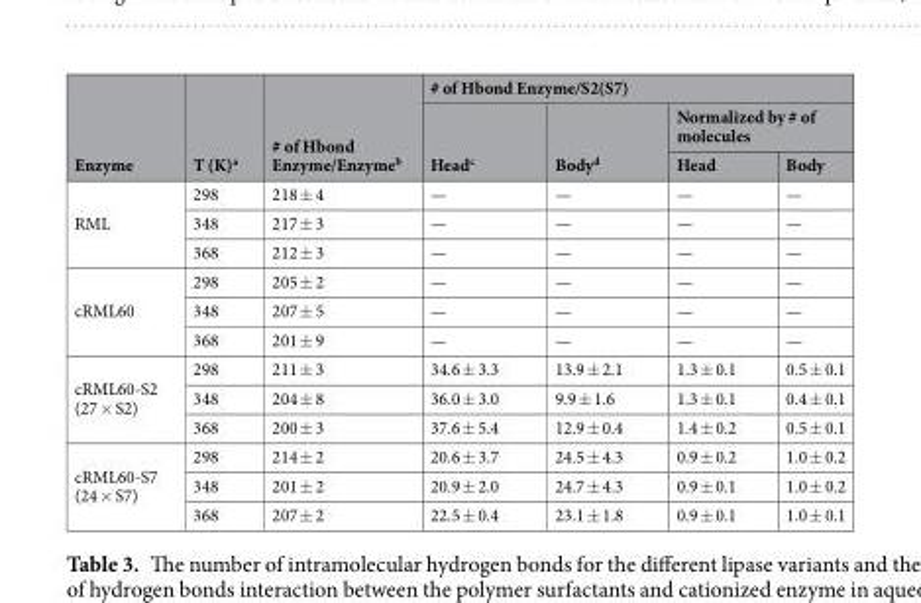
<table><thead><tr><td rowspan="3">Enzyme</td><td rowspan="3">T (K)<sup>a</sup></td><td rowspan="3"># of Hbond Enzyme/Enzyme<sup>b</sup></td><td colspan="4"># of Hbond Enzyme/S2(S7)</td></tr><tr><td rowspan="2">Head<sup>c</sup></td><td rowspan="2">Body<sup>d</sup></td><td colspan="2">Normalized by # of molecules</td></tr><tr><td>Head</td><td>Body</td></tr></thead><tbody><tr><td rowspan="3">RML</td><td>298</td><td>218 ± 4</td><td>—</td><td>—</td><td>—</td><td>—</td></tr><tr><td>348</td><td>217 ± 3</td><td>—</td><td>—</td><td>—</td><td>—</td></tr><tr><td>368</td><td>212 ± 3</td><td>—</td><td>—</td><td>—</td><td>—</td></tr><tr><td rowspan="3">cRML60</td><td>298</td><td>205 ± 2</td><td>—</td><td>—</td><td>—</td><td>—</td></tr><tr><td>348</td><td>207 ± 5</td><td>—</td><td>—</td><td>—</td><td>—</td></tr><tr><td>368</td><td>201 ± 9</td><td>—</td><td>—</td><td>—</td><td>—</td></tr><tr><td rowspan="3">cRML60-S2 (27 × S2)</td><td>298</td><td>211 ± 3</td><td>34.6 ± 3.3</td><td>13.9 ± 2.1</td><td>1.3 ± 0.1</td><td>0.5 ± 0.1</td></tr><tr><td>348</td><td>204 ± 8</td><td>36.0 ± 3.0</td><td>9.9 ± 1.6</td><td>1.3 ± 0.1</td><td>0.4 ± 0.1</td></tr><tr><td>368</td><td>200 ± 3</td><td>37.6 ± 5.4</td><td>12.9 ± 0.4</td><td>1.4 ± 0.2</td><td>0.5 ± 0.1</td></tr><tr><td rowspan="3">cRML60-S7 (24 × S7)</td><td>298</td><td>214 ± 2</td><td>20.6 ± 3.7</td><td>24.5 ± 4.3</td><td>0.9 ± 0.2</td><td>1.0 ± 0.2</td></tr><tr><td>348</td><td>201 ± 2</td><td>20.9 ± 2.0</td><td>24.7 ± 4.3</td><td>0.9 ± 0.1</td><td>1.0 ± 0.2</td></tr><tr><td>368</td><td>207 ± 2</td><td>22.5 ± 0.4</td><td>23.1 ± 1.8</td><td>0.9 ± 0.1</td><td>1.0 ± 0.1</td></tr></tbody></table>